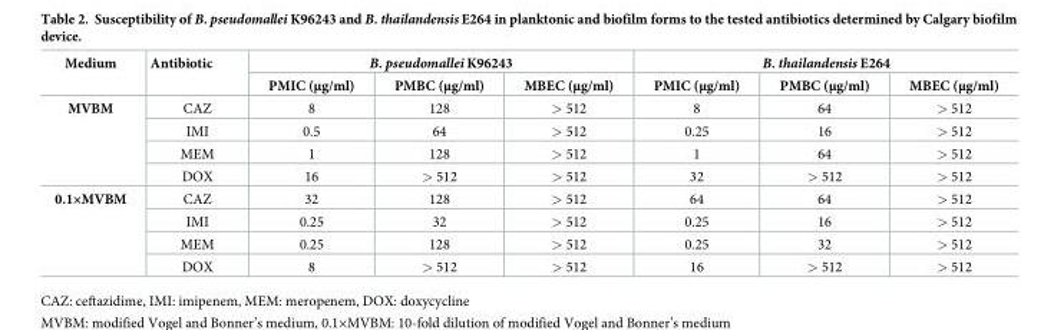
<table><thead><tr><td rowspan="2">Medium</td><td rowspan="2">Antibiotic</td><td colspan="3">B. pseudomallei K96243</td><td colspan="3">B. thailandensis E264</td></tr><tr><td>PMIC (μg/ml)</td><td>PMBC (μg/ml)</td><td>MBEC (μg/ml)</td><td>PMIC (μg/ml)</td><td>PMBC (μg/ml)</td><td>MBEC (μg/ml)</td></tr></thead><tbody><tr><td rowspan="4">MVBM</td><td>CAZ</td><td>8</td><td>128</td><td>&gt; 512</td><td>8</td><td>64</td><td>&gt; 512</td></tr><tr><td>IMI</td><td>0.5</td><td>64</td><td>&gt; 512</td><td>0.25</td><td>16</td><td>&gt; 512</td></tr><tr><td>MEM</td><td>1</td><td>128</td><td>&gt; 512</td><td>1</td><td>64</td><td>&gt; 512</td></tr><tr><td>DOX</td><td>16</td><td>&gt; 512</td><td>&gt; 512</td><td>32</td><td>&gt; 512</td><td>&gt; 512</td></tr><tr><td rowspan="4">0.1×MVBM</td><td>CAZ</td><td>32</td><td>128</td><td>&gt; 512</td><td>64</td><td>64</td><td>&gt; 512</td></tr><tr><td>IMI</td><td>0.25</td><td>32</td><td>&gt; 512</td><td>0.25</td><td>16</td><td>&gt; 512</td></tr><tr><td>MEM</td><td>0.25</td><td>128</td><td>&gt; 512</td><td>0.25</td><td>32</td><td>&gt; 512</td></tr><tr><td>DOX</td><td>8</td><td>&gt; 512</td><td>&gt; 512</td><td>16</td><td>&gt; 512</td><td>&gt; 512</td></tr></tbody></table>